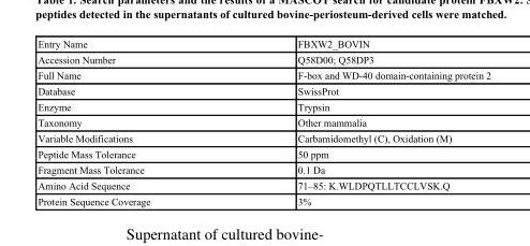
<table><tbody><tr><td>Entry Name</td><td>FBXW2_BOVIN</td></tr><tr><td>Accession Number</td><td>Q58D00; Q58DP3</td></tr><tr><td>Full Name</td><td>F-box and WD-40 domain-containing protein 2</td></tr><tr><td>Database</td><td>SwissProt</td></tr><tr><td>Enzyme</td><td>Trypsin</td></tr><tr><td>Taxonomy</td><td>Other mammalia</td></tr><tr><td>Variable Modifications</td><td>Carbamidomethyl (C), Oxidation (M)</td></tr><tr><td>Peptide Mass Tolerance</td><td>50 ppm</td></tr><tr><td>Fragment Mass Tolerance</td><td>0.1 Da</td></tr><tr><td>Amino Acid Sequence</td><td>71–85: K.WLDPQTLLTCCLVSK.Q</td></tr><tr><td>Protein Sequence Coverage</td><td>3%</td></tr></tbody></table>